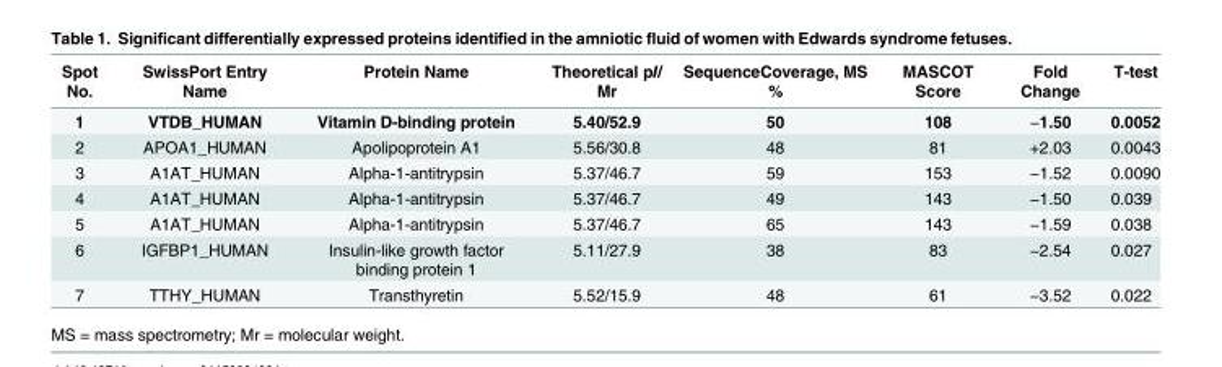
<table><thead><tr><td>Spot No.</td><td>SwissPort Entry Name</td><td>Protein Name</td><td>Theoretical pI/ Mr</td><td>SequenceCoverage, MS %</td><td>MASCOT Score</td><td>Fold Change</td><td>T-test</td></tr></thead><tbody><tr><td>1</td><td>VTDB_HUMAN</td><td>Vitamin D-binding protein</td><td>5.40/52.9</td><td>50</td><td>108</td><td>−1.50</td><td>0.0052</td></tr><tr><td>2</td><td>APOA1_HUMAN</td><td>Apolipoprotein A1</td><td>5.56/30.8</td><td>48</td><td>81</td><td>+2.03</td><td>0.0043</td></tr><tr><td>3</td><td>A1AT_HUMAN</td><td>Alpha-1-antitrypsin</td><td>5.37/46.7</td><td>59</td><td>153</td><td>−1.52</td><td>0.0090</td></tr><tr><td>4</td><td>A1AT_HUMAN</td><td>Alpha-1-antitrypsin</td><td>5.37/46.7</td><td>49</td><td>143</td><td>−1.50</td><td>0.039</td></tr><tr><td>5</td><td>A1AT_HUMAN</td><td>Alpha-1-antitrypsin</td><td>5.37/46.7</td><td>65</td><td>143</td><td>−1.59</td><td>0.038</td></tr><tr><td>6</td><td>IGFBP1_HUMAN</td><td>Insulin-like growth factor binding protein 1</td><td>5.11/27.9</td><td>38</td><td>83</td><td>−2.54</td><td>0.027</td></tr><tr><td>7</td><td>TTHY_HUMAN</td><td>Transthyretin</td><td>5.52/15.9</td><td>48</td><td>61</td><td>−3.52</td><td>0.022</td></tr></tbody></table>